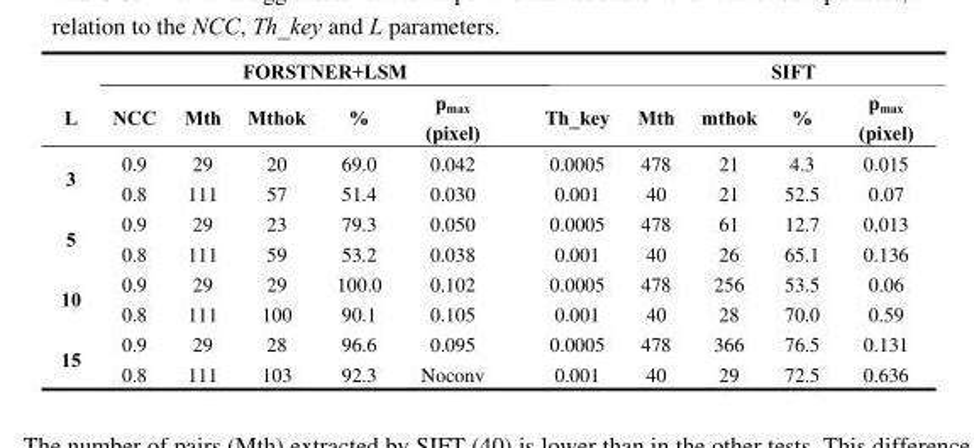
<table><thead><tr><td rowspan="2">L</td><td colspan="5">FORSTNER+LSM</td><td colspan="5">SIFT</td></tr><tr><td>NCC</td><td>Mth</td><td>Mthok</td><td>%</td><td>p<sub>max</sub> (pixel)</td><td>Th_key</td><td>Mth</td><td>mthok</td><td>%</td><td>p<sub>max</sub> (pixel)</td></tr></thead><tbody><tr><td rowspan="2">3</td><td>0.9</td><td>29</td><td>20</td><td>69.0</td><td>0.042</td><td>0.0005</td><td>478</td><td>21</td><td>4.3</td><td>0.015</td></tr><tr><td>0.8</td><td>111</td><td>57</td><td>51.4</td><td>0.030</td><td>0.001</td><td>40</td><td>21</td><td>52.5</td><td>0.07</td></tr><tr><td rowspan="2">5</td><td>0.9</td><td>29</td><td>23</td><td>79.3</td><td>0.050</td><td>0.0005</td><td>478</td><td>61</td><td>12.7</td><td>0,013</td></tr><tr><td>0.8</td><td>111</td><td>59</td><td>53.2</td><td>0.038</td><td>0.001</td><td>40</td><td>26</td><td>65.1</td><td>0.136</td></tr><tr><td rowspan="2">10</td><td>0.9</td><td>29</td><td>29</td><td>100.0</td><td>0.102</td><td>0.0005</td><td>478</td><td>256</td><td>53.5</td><td>0.06</td></tr><tr><td>0.8</td><td>111</td><td>100</td><td>90.1</td><td>0.105</td><td>0.001</td><td>40</td><td>28</td><td>70.0</td><td>0.59</td></tr><tr><td rowspan="2">15</td><td>0.9</td><td>29</td><td>28</td><td>96.6</td><td>0.095</td><td>0.0005</td><td>478</td><td>366</td><td>76.5</td><td>0.131</td></tr><tr><td>0.8</td><td>111</td><td>103</td><td>92.3</td><td>Noconv</td><td>0.001</td><td>40</td><td>29</td><td>72.5</td><td>0.636</td></tr></tbody></table>